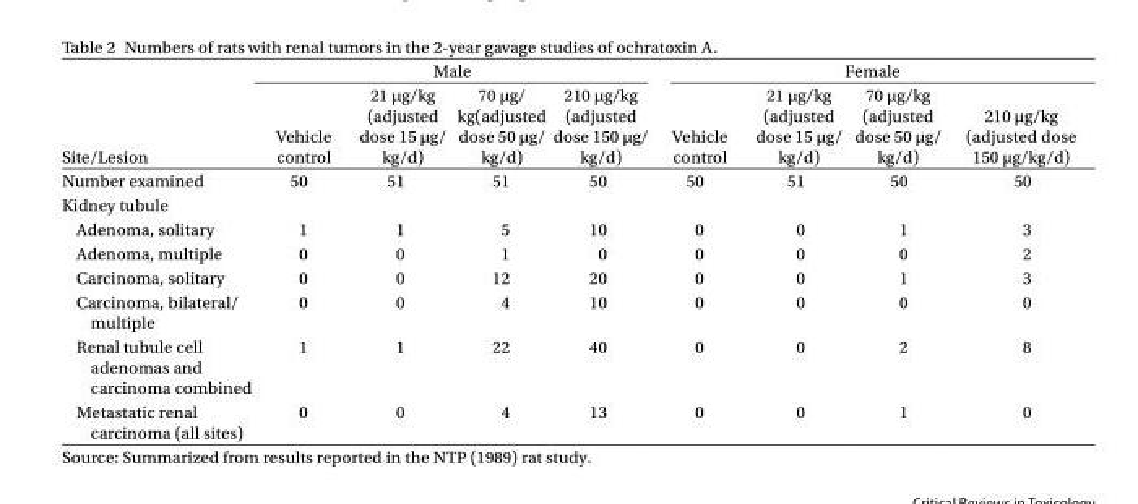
<table><thead><tr><td rowspan="2">Site/Lesion</td><td colspan="4">Male</td><td colspan="4">Female</td></tr><tr><td>Vehicle control</td><td>21 µg/kg (adjusted dose 15 µg/ kg/d)</td><td>70 µg/ kg(adjusted dose 50 µg/ kg/d)</td><td>210 µg/kg (adjusted dose 150 µg/ kg/d)</td><td>Vehicle control</td><td>21 µg/kg (adjusted dose 15 µg/ kg/d)</td><td>70 µg/kg (adjusted dose 50 µg/ kg/d)</td><td>210 µg/kg (adjusted dose 150 µg/kg/d)</td></tr></thead><tbody><tr><td>Number examined</td><td>50</td><td>51</td><td>51</td><td>50</td><td>50</td><td>51</td><td>50</td><td>50</td></tr><tr><td colspan="9">Kidney tubule</td></tr><tr><td>Adenoma, solitary</td><td>1</td><td>1</td><td>5</td><td>10</td><td>0</td><td>0</td><td>1</td><td>3</td></tr><tr><td>Adenoma, multiple</td><td>0</td><td>0</td><td>1</td><td>0</td><td>0</td><td>0</td><td>0</td><td>2</td></tr><tr><td>Carcinoma, solitary</td><td>0</td><td>0</td><td>12</td><td>20</td><td>0</td><td>0</td><td>1</td><td>3</td></tr><tr><td>Carcinoma, bilateral/ multiple</td><td>0</td><td>0</td><td>4</td><td>10</td><td>0</td><td>0</td><td>0</td><td>0</td></tr><tr><td>Renal tubule cell adenomas and carcinoma combined</td><td>1</td><td>1</td><td>22</td><td>40</td><td>0</td><td>0</td><td>2</td><td>8</td></tr><tr><td>Metastatic renal carcinoma (all sites)</td><td>0</td><td>0</td><td>4</td><td>13</td><td>0</td><td>0</td><td>1</td><td>0</td></tr></tbody></table>